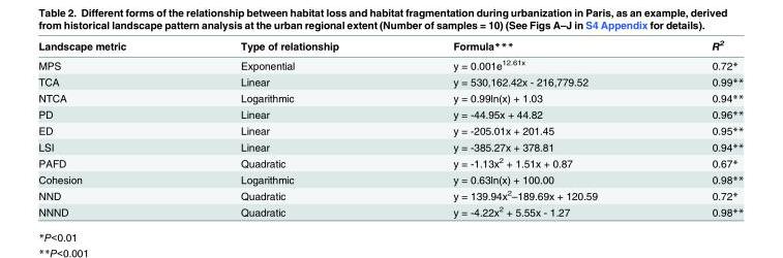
<table><thead><tr><td>Landscape metric</td><td>Type of relationship</td><td>Formula***</td><td>R<sup>2</sup></td></tr></thead><tbody><tr><td>MPS</td><td>Exponential</td><td>y = 0.001e<sup>12.61x</sup></td><td>0.72*</td></tr><tr><td>TCA</td><td>Linear</td><td>y = 530,162.42x - 216,779.52</td><td>0.99**</td></tr><tr><td>NTCA</td><td>Logarithmic</td><td>y = 0.99ln(x) + 1.03</td><td>0.94**</td></tr><tr><td>PD</td><td>Linear</td><td>y = -44.95x + 44.82</td><td>0.96**</td></tr><tr><td>ED</td><td>Linear</td><td>y = -205.01x + 201.45</td><td>0.95**</td></tr><tr><td>LSI</td><td>Linear</td><td>y = -385.27x + 378.81</td><td>0.94**</td></tr><tr><td>PAFD</td><td>Quadratic</td><td>y = -1.13x<sup>2</sup> + 1.51x + 0.87</td><td>0.67*</td></tr><tr><td>Cohesion</td><td>Logarithmic</td><td>y = 0.63ln(x) + 100.00</td><td>0.98**</td></tr><tr><td>NND</td><td>Quadratic</td><td>y = 139.94x<sup>2</sup>–189.69x + 120.59</td><td>0.72*</td></tr><tr><td>NNND</td><td>Quadratic</td><td>y = -4.22x<sup>2</sup> + 5.55x - 1.27</td><td>0.98**</td></tr></tbody></table>